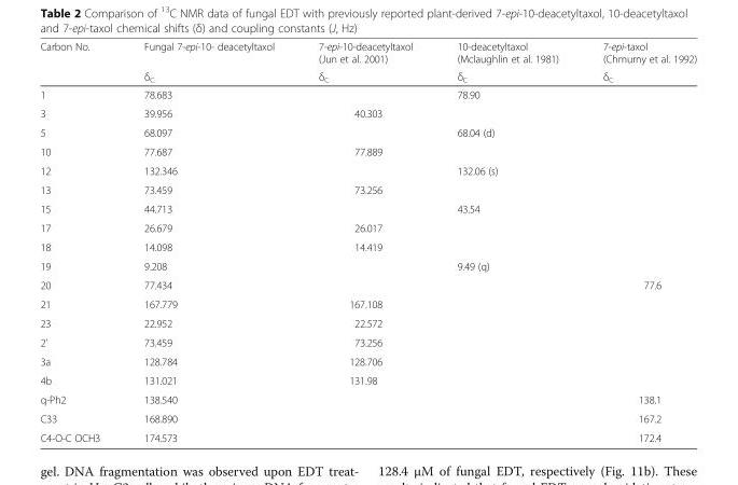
<table><thead><tr><td rowspan="2">Carbon No.</td><td rowspan="2">Fungal 7-epi-10- deacetyltaxol δ<sub>C</sub></td><td rowspan="2">7-epi-10-deacetyltaxol (Jun et al. 2001) δ<sub>C</sub></td><td rowspan="2">10-deacetyltaxol (Mclaughlin et al. 1981) δ<sub>C</sub></td><td rowspan="2">7-epi-taxol (Chmurny et al. 1992) δ<sub>C</sub></td></tr><tr></tr></thead><tbody><tr><td>1</td><td>78.683</td><td></td><td>78.90</td><td></td></tr><tr><td>3</td><td>39.956</td><td>40.303</td><td></td><td></td></tr><tr><td>5</td><td>68.097</td><td></td><td>68.04 (d)</td><td></td></tr><tr><td>10</td><td>77.687</td><td>77.889</td><td></td><td></td></tr><tr><td>12</td><td>132.346</td><td></td><td>132.06 (s)</td><td></td></tr><tr><td>13</td><td>73.459</td><td>73.256</td><td></td><td></td></tr><tr><td>15</td><td>44.713</td><td></td><td>43.54</td><td></td></tr><tr><td>17</td><td>26.679</td><td>26.017</td><td></td><td></td></tr><tr><td>18</td><td>14.098</td><td>14.419</td><td></td><td></td></tr><tr><td>19</td><td>9.208</td><td></td><td>9.49 (q)</td><td></td></tr><tr><td>20</td><td>77.434</td><td></td><td></td><td>77.6</td></tr><tr><td>21</td><td>167.779</td><td>167.108</td><td></td><td></td></tr><tr><td>23</td><td>22.952</td><td>22.572</td><td></td><td></td></tr><tr><td>2’</td><td>73.459</td><td>73.256</td><td></td><td></td></tr><tr><td>3a</td><td>128.784</td><td>128.706</td><td></td><td></td></tr><tr><td>4b</td><td>131.021</td><td>131.98</td><td></td><td></td></tr><tr><td>q-Ph2</td><td>138.540</td><td></td><td></td><td>138.1</td></tr><tr><td>C33</td><td>168.890</td><td></td><td></td><td>167.2</td></tr><tr><td>C4-O-C OCH3</td><td>174.573</td><td></td><td></td><td>172.4</td></tr></tbody></table>